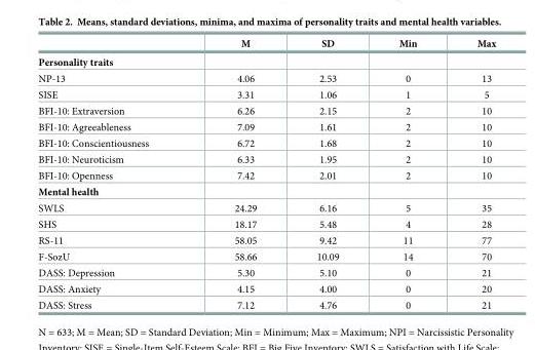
<table><thead><tr><td></td><td>M</td><td>SD</td><td>Min</td><td>Max</td></tr></thead><tbody><tr><td colspan="5">Personality traits</td></tr><tr><td>NP-13</td><td>4.06</td><td>2.53</td><td>0</td><td>13</td></tr><tr><td>SISE</td><td>3.31</td><td>1.06</td><td>1</td><td>5</td></tr><tr><td>BFI-10: Extraversion</td><td>6.26</td><td>2.15</td><td>2</td><td>10</td></tr><tr><td>BFI-10: Agreeableness</td><td>7.09</td><td>1.61</td><td>2</td><td>10</td></tr><tr><td>BFI-10: Conscientiousness</td><td>6.72</td><td>1.68</td><td>2</td><td>10</td></tr><tr><td>BFI-10: Neuroticism</td><td>6.33</td><td>1.95</td><td>2</td><td>10</td></tr><tr><td>BFI-10: Openness</td><td>7.42</td><td>2.01</td><td>2</td><td>10</td></tr><tr><td colspan="5">Mental health</td></tr><tr><td>SWLS</td><td>24.29</td><td>6.16</td><td>5</td><td>35</td></tr><tr><td>SHS</td><td>18.17</td><td>5.48</td><td>4</td><td>28</td></tr><tr><td>RS-11</td><td>58.05</td><td>9.42</td><td>11</td><td>77</td></tr><tr><td>F-SozU</td><td>58.66</td><td>10.09</td><td>14</td><td>70</td></tr><tr><td>DASS: Depression</td><td>5.30</td><td>5.10</td><td>0</td><td>21</td></tr><tr><td>DASS: Anxiety</td><td>4.15</td><td>4.00</td><td>0</td><td>20</td></tr><tr><td>DASS: Stress</td><td>7.12</td><td>4.76</td><td>0</td><td>21</td></tr></tbody></table>